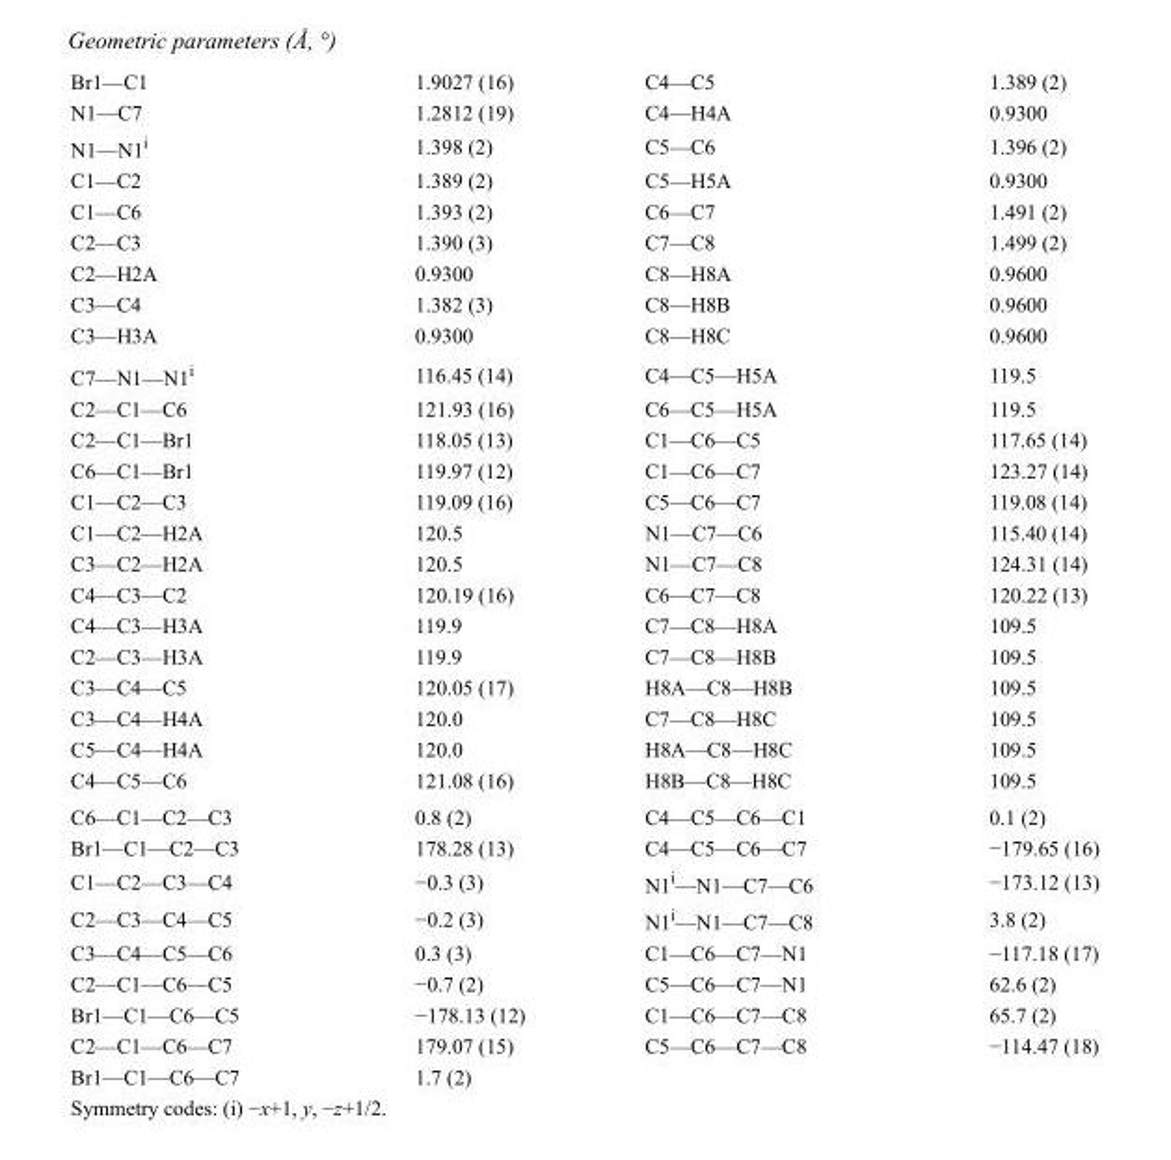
<table><tbody><tr><td>Br1—C1</td><td>1.9027 (16)</td><td>C4—C5</td><td>1.389 (2)</td></tr><tr><td>N1—C7</td><td>1.2812 (19)</td><td>C4—H4A</td><td>0.9300</td></tr><tr><td>N1—N1<sup>i</sup></td><td>1.398 (2)</td><td>C5—C6</td><td>1.396 (2)</td></tr><tr><td>C1—C2</td><td>1.389 (2)</td><td>C5—H5A</td><td>0.9300</td></tr><tr><td>C1—C6</td><td>1.393 (2)</td><td>C6—C7</td><td>1.491 (2)</td></tr><tr><td>C2—C3</td><td>1.390 (3)</td><td>C7—C8</td><td>1.499 (2)</td></tr><tr><td>C2—H2A</td><td>0.9300</td><td>C8—H8A</td><td>0.9600</td></tr><tr><td>C3—C4</td><td>1.382 (3)</td><td>C8—H8B</td><td>0.9600</td></tr><tr><td>C3—H3A</td><td>0.9300</td><td>C8—H8C</td><td>0.9600</td></tr><tr><td>C7—N1—N1<sup>i</sup></td><td>116.45 (14)</td><td>C4—C5—H5A</td><td>119.5</td></tr><tr><td>C2—C1—C6</td><td>121.93 (16)</td><td>C6—C5—H5A</td><td>119.5</td></tr><tr><td>C2—C1—Br1</td><td>118.05 (13)</td><td>C1—C6—C5</td><td>117.65 (14)</td></tr><tr><td>C6—C1—Br1</td><td>119.97 (12)</td><td>C1—C6—C7</td><td>123.27 (14)</td></tr><tr><td>C1—C2—C3</td><td>119.09 (16)</td><td>C5—C6—C7</td><td>119.08 (14)</td></tr><tr><td>C1—C2—H2A</td><td>120.5</td><td>N1—C7—C6</td><td>115.40 (14)</td></tr><tr><td>C3—C2—H2A</td><td>120.5</td><td>N1—C7—C8</td><td>124.31 (14)</td></tr><tr><td>C4—C3—C2</td><td>120.19 (16)</td><td>C6—C7—C8</td><td>120.22 (13)</td></tr><tr><td>C4—C3—H3A</td><td>119.9</td><td>C7—C8—H8A</td><td>109.5</td></tr><tr><td>C2—C3—H3A</td><td>119.9</td><td>C7—C8—H8B</td><td>109.5</td></tr><tr><td>C3—C4—C5</td><td>120.05 (17)</td><td>H8A—C8—H8B</td><td>109.5</td></tr><tr><td>C3—C4—H4A</td><td>120.0</td><td>C7—C8—H8C</td><td>109.5</td></tr><tr><td>C5—C4—H4A</td><td>120.0</td><td>H8A—C8—H8C</td><td>109.5</td></tr><tr><td>C4—C5—C6</td><td>121.08 (16)</td><td>H8B—C8—H8C</td><td>109.5</td></tr><tr><td>C6—C1—C2—C3</td><td>0.8 (2)</td><td>C4—C5—C6—C1</td><td>0.1 (2)</td></tr><tr><td>Br1—C1—C2—C3</td><td>178.28 (13)</td><td>C4—C5—C6—C7</td><td>−179.65 (16)</td></tr><tr><td>C1—C2—C3—C4</td><td>−0.3 (3)</td><td>N1<sup>i</sup>—N1—C7—C6</td><td>−173.12 (13)</td></tr><tr><td>C2—C3—C4—C5</td><td>−0.2 (3)</td><td>N1<sup>i</sup>—N1—C7—C8</td><td>3.8 (2)</td></tr><tr><td>C3—C4—C5—C6</td><td>0.3 (3)</td><td>C1—C6—C7—N1</td><td>−117.18 (17)</td></tr><tr><td>C2—C1—C6—C5</td><td>−0.7 (2)</td><td>C5—C6—C7—N1</td><td>62.6 (2)</td></tr><tr><td>Br1—C1—C6—C5</td><td>−178.13 (12)</td><td>C1—C6—C7—C8</td><td>65.7 (2)</td></tr><tr><td>C2—C1—C6—C7</td><td>179.07 (15)</td><td>C5—C6—C7—C8</td><td>−114.47 (18)</td></tr><tr><td>Br1—C1—C6—C7</td><td>1.7 (2)</td><td></td><td></td></tr></tbody></table>